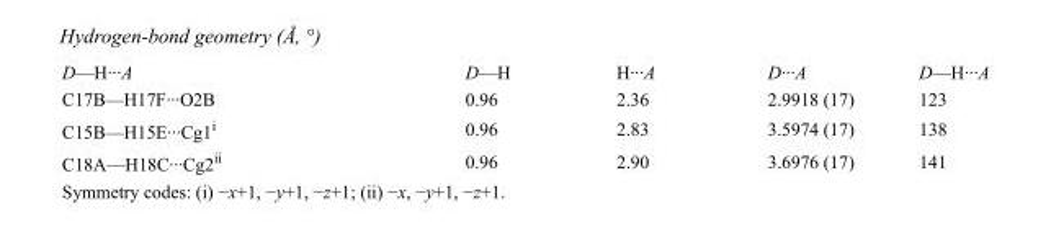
<table><tbody><tr><td>D—H···A</td><td>D—H</td><td>H···A</td><td>D···A</td><td>D—H···A</td></tr><tr><td>C17B—H17F···O2B</td><td>0.96</td><td>2.36</td><td>2.9918 (17)</td><td>123</td></tr><tr><td>C15B—H15E···Cg1<sup>i</sup></td><td>0.96</td><td>2.83</td><td>3.5974 (17)</td><td>138</td></tr><tr><td>C18A—H18C···Cg2<sup>ii</sup></td><td>0.96</td><td>2.90</td><td>3.6976 (17)</td><td>141</td></tr></tbody></table>